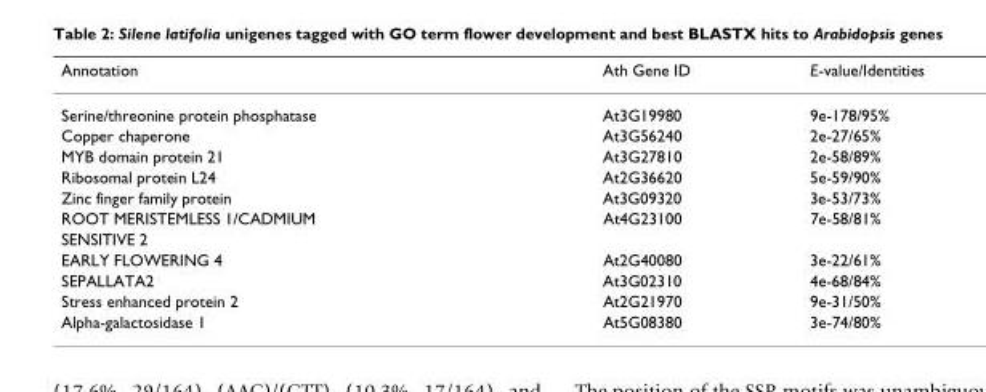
<table><thead><tr><td>Annotation</td><td>Ath Gene ID</td><td>E-value/Identities</td></tr></thead><tbody><tr><td>Serine/threonine protein phosphatase</td><td>At3G19980</td><td>9e-178/95%</td></tr><tr><td>Copper chaperone</td><td>At3G56240</td><td>2e-27/65%</td></tr><tr><td>MYB domain protein 21</td><td>At3G27810</td><td>2e-58/89%</td></tr><tr><td>Ribosomal protein L24</td><td>At2G36620</td><td>5e-59/90%</td></tr><tr><td>Zinc finger family protein</td><td>At3G09320</td><td>3e-53/73%</td></tr><tr><td>ROOT MERISTEMLESS 1/CADMIUM</td><td>At4G23100</td><td>7e-58/81%</td></tr><tr><td colspan="3">SENSITIVE 2</td></tr><tr><td>EARLY FLOWERING 4</td><td>At2G40080</td><td>3e-22/61%</td></tr><tr><td>SEPALLATA2</td><td>At3G02310</td><td>4e-68/84%</td></tr><tr><td>Stress enhanced protein 2</td><td>At2G21970</td><td>9e-31/50%</td></tr><tr><td>Alpha-galactosidase 1</td><td>At5G08380</td><td>3e-74/80%</td></tr></tbody></table>